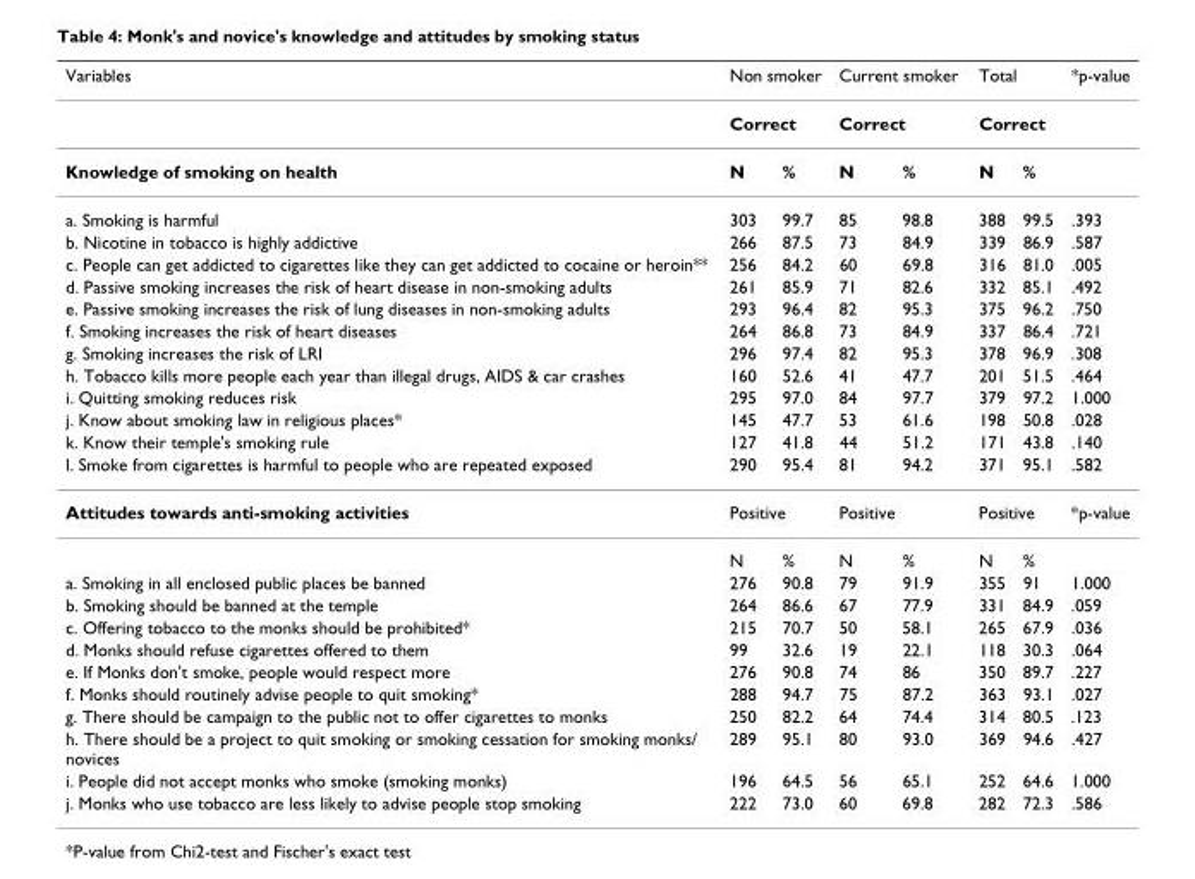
<table><thead><tr><td rowspan="3">Variables Knowledge of smoking on health</td><td rowspan="2" colspan="2">Non smoker Correct</td><td rowspan="2" colspan="2">Current smoker Correct</td><td rowspan="2" colspan="2">Total Correct</td><td rowspan="3">*p-value</td></tr><tr></tr><tr><td>N</td><td>%</td><td>N</td><td>%</td><td>N</td><td>%</td></tr></thead><tbody><tr><td>a. Smoking is harmful</td><td>303</td><td>99.7</td><td>85</td><td>98.8</td><td>388</td><td>99.5</td><td>.393</td></tr><tr><td>b. Nicotine in tobacco is highly addictive</td><td>266</td><td>87.5</td><td>73</td><td>84.9</td><td>339</td><td>86.9</td><td>.587</td></tr><tr><td>c. People can get addicted to cigarettes like they can get addicted to cocaine or heroin**</td><td>256</td><td>84.2</td><td>60</td><td>69.8</td><td>316</td><td>81.0</td><td>.005</td></tr><tr><td>d. Passive smoking increases the risk of heart disease in non-smoking adults</td><td>261</td><td>85.9</td><td>71</td><td>82.6</td><td>332</td><td>85.1</td><td>.492</td></tr><tr><td>e. Passive smoking increases the risk of lung diseases in non-smoking adults</td><td>293</td><td>96.4</td><td>82</td><td>95.3</td><td>375</td><td>96.2</td><td>.750</td></tr><tr><td>f. Smoking increases the risk of heart diseases</td><td>264</td><td>86.8</td><td>73</td><td>84.9</td><td>337</td><td>86.4</td><td>.721</td></tr><tr><td>g. Smoking increases the risk of LRI</td><td>296</td><td>97.4</td><td>82</td><td>95.3</td><td>378</td><td>96.9</td><td>.308</td></tr><tr><td>h. Tobacco kills more people each year than illegal drugs, AIDS &amp; car crashes</td><td>160</td><td>52.6</td><td>41</td><td>47.7</td><td>201</td><td>51.5</td><td>.464</td></tr><tr><td>i. Quitting smoking reduces risk</td><td>295</td><td>97.0</td><td>84</td><td>97.7</td><td>379</td><td>97.2</td><td>1.000</td></tr><tr><td>j. Know about smoking law in religious places*</td><td>145</td><td>47.7</td><td>53</td><td>61.6</td><td>198</td><td>50.8</td><td>.028</td></tr><tr><td>k. Know their temple&#x27;s smoking rule</td><td>127</td><td>41.8</td><td>44</td><td>51.2</td><td>171</td><td>43.8</td><td>.140</td></tr><tr><td>l. Smoke from cigarettes is harmful to people who are repeated exposed</td><td>290</td><td>95.4</td><td>81</td><td>94.2</td><td>371</td><td>95.1</td><td>.582</td></tr><tr><td rowspan="2">Attitudes towards anti-smoking activities</td><td colspan="2">Positive</td><td colspan="2">Positive</td><td colspan="2">Positive</td><td>*p-value</td></tr><tr><td>N</td><td>%</td><td>N</td><td>%</td><td>N</td><td>%</td><td></td></tr><tr><td>a. Smoking in all enclosed public places be banned</td><td>276</td><td>90.8</td><td>79</td><td>91.9</td><td>355</td><td>91</td><td>1.000</td></tr><tr><td>b. Smoking should be banned at the temple</td><td>264</td><td>86.6</td><td>67</td><td>77.9</td><td>331</td><td>84.9</td><td>.059</td></tr><tr><td>c. Offering tobacco to the monks should be prohibited*</td><td>215</td><td>70.7</td><td>50</td><td>58.1</td><td>265</td><td>67.9</td><td>.036</td></tr><tr><td>d. Monks should refuse cigarettes offered to them</td><td>99</td><td>32.6</td><td>19</td><td>22.1</td><td>118</td><td>30.3</td><td>.064</td></tr><tr><td>e. If Monks don&#x27;t smoke, people would respect more</td><td>276</td><td>90.8</td><td>74</td><td>86</td><td>350</td><td>89.7</td><td>.227</td></tr><tr><td>f. Monks should routinely advise people to quit smoking*</td><td>288</td><td>94.7</td><td>75</td><td>87.2</td><td>363</td><td>93.1</td><td>.027</td></tr><tr><td>g. There should be campaign to the public not to offer cigarettes to monks</td><td>250</td><td>82.2</td><td>64</td><td>74.4</td><td>314</td><td>80.5</td><td>.123</td></tr><tr><td>h. There should be a project to quit smoking or smoking cessation for smoking monks/ novices</td><td>289</td><td>95.1</td><td>80</td><td>93.0</td><td>369</td><td>94.6</td><td>.427</td></tr><tr><td>i. People did not accept monks who smoke (smoking monks)</td><td>196</td><td>64.5</td><td>56</td><td>65.1</td><td>252</td><td>64.6</td><td>1.000</td></tr><tr><td>j. Monks who use tobacco are less likely to advise people stop smoking</td><td>222</td><td>73.0</td><td>60</td><td>69.8</td><td>282</td><td>72.3</td><td>.586</td></tr></tbody></table>